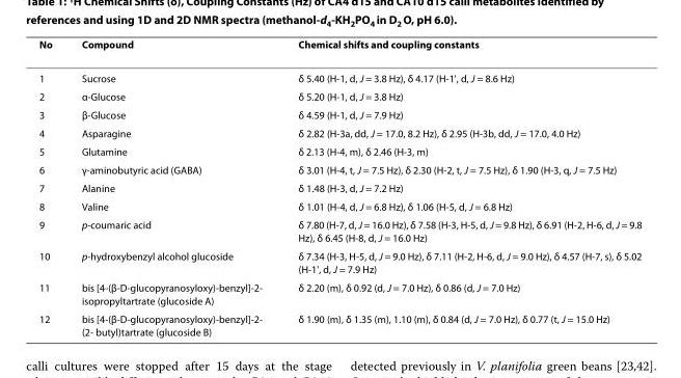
<table><thead><tr><td>No</td><td>Compound</td><td>Chemical shifts and coupling constants</td></tr></thead><tbody><tr><td>1</td><td>Sucrose</td><td>δ 5.40 (H-1, d, J = 3.8 Hz), δ 4.17 (H-1&#x27;, d, J = 8.6 Hz)</td></tr><tr><td>2</td><td>α-Glucose</td><td>δ 5.20 (H-1, d, J = 3.8 Hz)</td></tr><tr><td>3</td><td>β-Glucose</td><td>δ 4.59 (H-1, d, J = 7.9 Hz)</td></tr><tr><td>4</td><td>Asparagine</td><td>δ 2.82 (H-3a, dd, J = 17.0, 8.2 Hz), δ 2.95 (H-3b, dd, J = 17.0, 4.0 Hz)</td></tr><tr><td>5</td><td>Glutamine</td><td>δ 2.13 (H-4, m), δ 2.46 (H-3, m)</td></tr><tr><td>6</td><td>γ-aminobutyric acid (GABA)</td><td>δ 3.01 (H-4, t, J = 7.5 Hz), δ 2.30 (H-2, t, J = 7.5 Hz), δ 1.90 (H-3, q, J = 7.5 Hz)</td></tr><tr><td>7</td><td>Alanine</td><td>δ 1.48 (H-3, d, J = 7.2 Hz)</td></tr><tr><td>8</td><td>Valine</td><td>δ 1.01 (H-4, d, J = 6.8 Hz), δ 1.06 (H-5, d, J = 6.8 Hz)</td></tr><tr><td>9</td><td>p-coumaric acid</td><td>δ 7.80 (H-7, d, J = 16.0 Hz), δ 7.58 (H-3, H-5, d, J = 9.8 Hz), δ 6.91 (H-2, H-6, d, J = 9.8 Hz), δ 6.45 (H-8, d, J = 16.0 Hz)</td></tr><tr><td>10</td><td>p-hydroxybenzyl alcohol glucoside</td><td>δ 7.34 (H-3, H-5, d, J = 9.0 Hz), δ 7.11 (H-2, H-6, d, J = 9.0 Hz), δ 4.57 (H-7, s), δ 5.02 (H-1&#x27;, d, J = 7.9 Hz)</td></tr><tr><td>11</td><td>bis [4-(β-D-glucopyranosyloxy)-benzyl]-2- isopropyltartrate (glucoside A)</td><td>δ 2.20 (m), δ 0.92 (d, J = 7.0 Hz), δ 0.86 (d, J = 7.0 Hz)</td></tr><tr><td>12</td><td>bis [4-(β-D-glucopyranosyloxy)-benzyl]-2- (2- butyl)tartrate (glucoside B)</td><td>δ 1.90 (m), δ 1.35 (m), 1.10 (m), δ 0.84 (d, J = 7.0 Hz), δ 0.77 (t, J = 15.0 Hz)</td></tr></tbody></table>